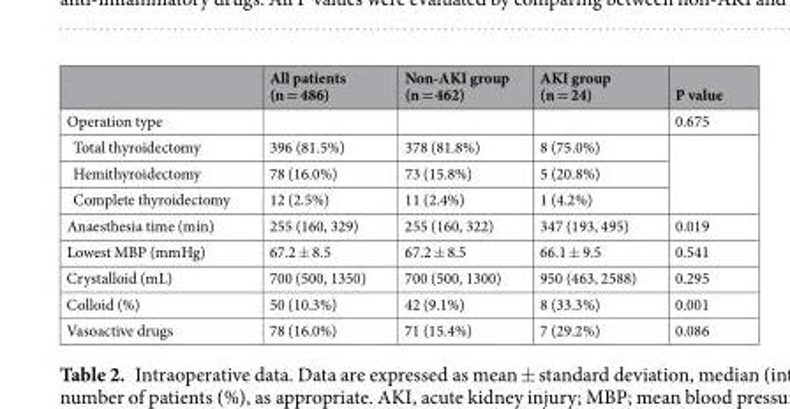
<table><thead><tr><td></td><td>All patients (n = 486)</td><td>Non-AKI group (n = 462)</td><td>AKI group (n = 24)</td><td>P value</td></tr></thead><tbody><tr><td>Operation type</td><td></td><td></td><td></td><td>0.675</td></tr><tr><td>Total thyroidectomy</td><td>396 (81.5%)</td><td>378 (81.8%)</td><td>8 (75.0%)</td><td rowspan="3"></td></tr><tr><td>Hemithyroidectomy</td><td>78 (16.0%)</td><td>73 (15.8%)</td><td>5 (20.8%)</td></tr><tr><td>Complete thyroidectomy</td><td>12 (2.5%)</td><td>11 (2.4%)</td><td>1 (4.2%)</td></tr><tr><td>Anaesthesia time (min)</td><td>255 (160, 329)</td><td>255 (160, 322)</td><td>347 (193, 495)</td><td>0.019</td></tr><tr><td>Lowest MBP (mmHg)</td><td>67.2 ± 8.5</td><td>67.2 ± 8.5</td><td>66.1 ± 9.5</td><td>0.541</td></tr><tr><td>Crystalloid (mL)</td><td>700 (500, 1350)</td><td>700 (500, 1300)</td><td>950 (463, 2588)</td><td>0.295</td></tr><tr><td>Colloid (%)</td><td>50 (10.3%)</td><td>42 (9.1%)</td><td>8 (33.3%)</td><td>0.001</td></tr><tr><td>Vasoactive drugs</td><td>78 (16.0%)</td><td>71 (15.4%)</td><td>7 (29.2%)</td><td>0.086</td></tr></tbody></table>